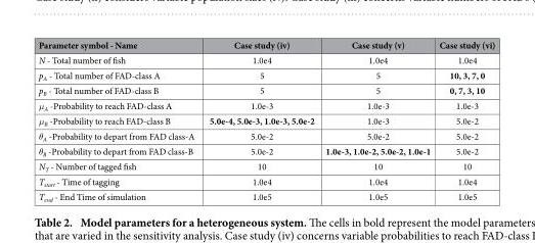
<table><thead><tr><td>Parameter symbol - Name</td><td>Case study (iv)</td><td>Case study (v)</td><td>Case study (vi)</td></tr></thead><tbody><tr><td>N - Total number of fish</td><td>1.0e4</td><td>1.0e4</td><td>1.0e4</td></tr><tr><td>p<sub>A</sub> - Total number of FAD-class A</td><td>5</td><td>5</td><td>10, 3, 7, 0</td></tr><tr><td>p<sub>B</sub> - Total number of FAD-class B</td><td>5</td><td>5</td><td>0, 7, 3, 10</td></tr><tr><td>μ<sub>A</sub> -Probability to reach FAD-class A</td><td>1.0e-3</td><td>1.0e-3</td><td>1.0e-3</td></tr><tr><td>μ<sub>B</sub> -Probability to reach FAD-class B</td><td>5.0e-4, 5.0e-3, 1.0e-3, 5.0e-2</td><td>1.0e-3</td><td>5.0e-2</td></tr><tr><td>θ<sub>A</sub> -Probability to depart from FAD class-A</td><td>5.0e-2</td><td>5.0e-2</td><td>5.0e-2</td></tr><tr><td>θ<sub>B</sub> -Probability to depart from FAD class-B</td><td>5.0e-2</td><td>1.0e-3, 1.0e-2, 5.0e-2, 1.0e-1</td><td>5.0e-2</td></tr><tr><td>N<sub>T</sub> - Number of tagged fish</td><td>10</td><td>10</td><td>10</td></tr><tr><td>T<sub>start</sub> - Time of tagging</td><td>1.0e4</td><td>1.0e4</td><td>1.0e4</td></tr><tr><td>T<sub>end</sub> - End Time of simulation</td><td>1.0e5</td><td>1.0e5</td><td>1.0e5</td></tr></tbody></table>